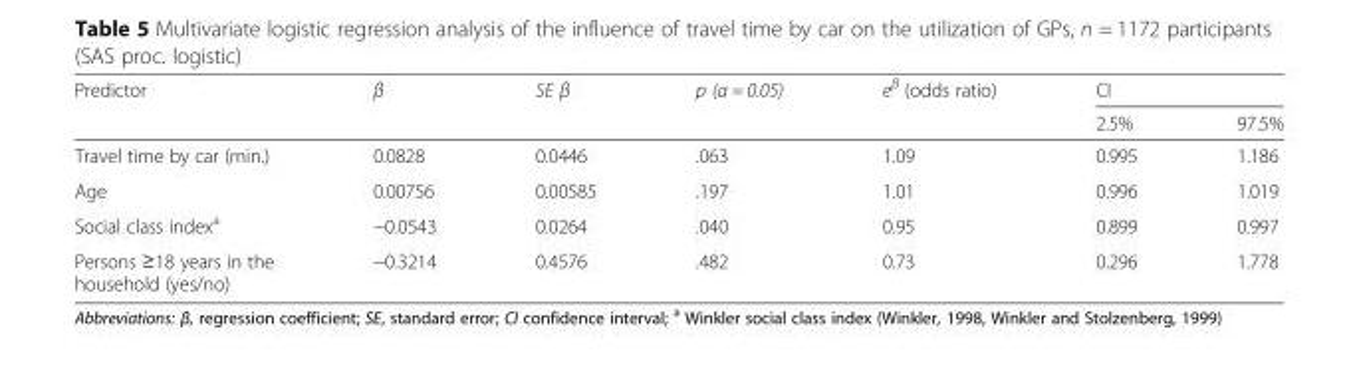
<table><thead><tr><td rowspan="2">Predictor</td><td rowspan="2">β</td><td rowspan="2">SE β</td><td rowspan="2">p (α = 0.05)</td><td rowspan="2">e<sup>β</sup> (odds ratio)</td><td colspan="2">CI</td></tr><tr><td>2.5%</td><td>97.5%</td></tr></thead><tbody><tr><td>Travel time by car (min.)</td><td>0.0828</td><td>0.0446</td><td>.063</td><td>1.09</td><td>0.995</td><td>1.186</td></tr><tr><td>Age</td><td>0.00756</td><td>0.00585</td><td>.197</td><td>1.01</td><td>0.996</td><td>1.019</td></tr><tr><td>Social class index<sup>a</sup></td><td>−0.0543</td><td>0.0264</td><td>.040</td><td>0.95</td><td>0.899</td><td>0.997</td></tr><tr><td>Persons ≥18 years in the household (yes/no)</td><td>−0.3214</td><td>0.4576</td><td>.482</td><td>0.73</td><td>0.296</td><td>1.778</td></tr></tbody></table>